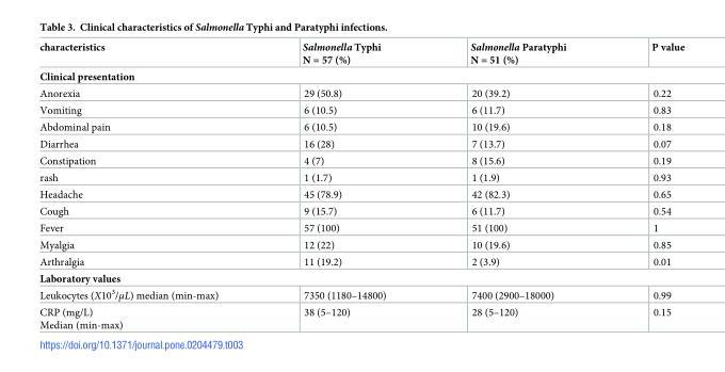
<table><thead><tr><td>characteristics</td><td>Salmonella Typhi N = 57 (%)</td><td>Salmonella Paratyphi N = 51 (%)</td><td>P value</td></tr></thead><tbody><tr><td colspan="4">Clinical presentation</td></tr><tr><td>Anorexia</td><td>29 (50.8)</td><td>20 (39.2)</td><td>0.22</td></tr><tr><td>Vomiting</td><td>6 (10.5)</td><td>6 (11.7)</td><td>0.83</td></tr><tr><td>Abdominal pain</td><td>6 (10.5)</td><td>10 (19.6)</td><td>0.18</td></tr><tr><td>Diarrhea</td><td>16 (28)</td><td>7 (13.7)</td><td>0.07</td></tr><tr><td>Constipation</td><td>4 (7)</td><td>8 (15.6)</td><td>0.19</td></tr><tr><td>rash</td><td>1 (1.7)</td><td>1 (1.9)</td><td>0.93</td></tr><tr><td>Headache</td><td>45 (78.9)</td><td>42 (82.3)</td><td>0.65</td></tr><tr><td>Cough</td><td>9 (15.7)</td><td>6 (11.7)</td><td>0.54</td></tr><tr><td>Fever</td><td>57 (100)</td><td>51 (100)</td><td>1</td></tr><tr><td>Myalgia</td><td>12 (22)</td><td>10 (19.6)</td><td>0.85</td></tr><tr><td>Arthralgia</td><td>11 (19.2)</td><td>2 (3.9)</td><td>0.01</td></tr><tr><td colspan="4">Laboratory values</td></tr><tr><td>Leukocytes (X10<sup>3</sup>/μL) median (min-max)</td><td>7350 (1180–14800)</td><td>7400 (2900–18000)</td><td>0.99</td></tr><tr><td>CRP (mg/L) Median (min-max)</td><td>38 (5–120)</td><td>28 (5–120)</td><td>0.15</td></tr></tbody></table>